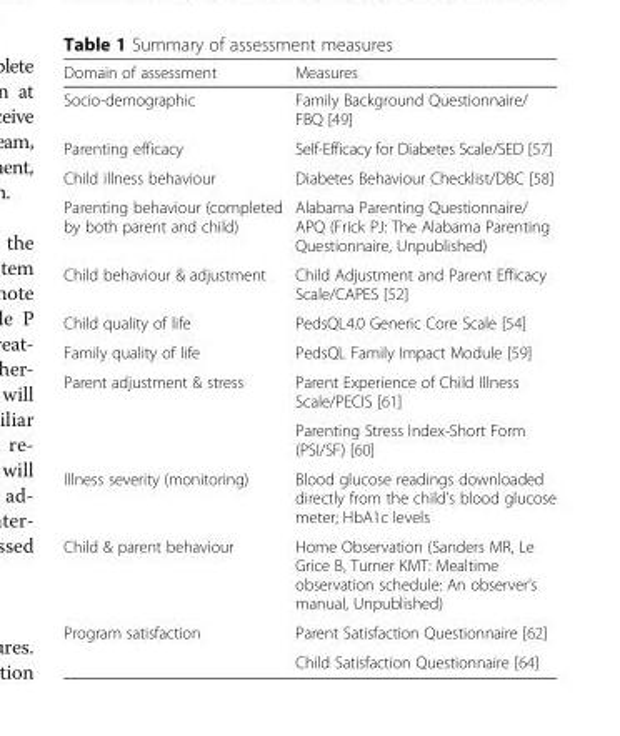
<table><thead><tr><td>Domain of assessment</td><td>Measures</td></tr></thead><tbody><tr><td>Socio-demographic</td><td>Family Background Questionnaire/ FBQ [49]</td></tr><tr><td>Parenting efficacy</td><td>Self-Efficacy for Diabetes Scale/SED [57]</td></tr><tr><td>Child illness behaviour</td><td>Diabetes Behaviour Checklist/DBC [58]</td></tr><tr><td>Parenting behaviour (completed by both parent and child)</td><td>Alabama Parenting Questionnaire/ APQ (Frick PJ: The Alabama Parenting Questionnaire, Unpublished)</td></tr><tr><td>Child behaviour &amp; adjustment</td><td>Child Adjustment and Parent Efficacy Scale/CAPES [52]</td></tr><tr><td>Child quality of life</td><td>PedsQL4.0 Generic Core Scale [54]</td></tr><tr><td>Family quality of life</td><td>PedsQL Family Impact Module [59]</td></tr><tr><td rowspan="2">Parent adjustment &amp; stress</td><td>Parent Experience of Child Illness Scale/PECIS [61]</td></tr><tr><td>Parenting Stress Index-Short Form (PSI/SF) [60]</td></tr><tr><td>Illness severity (monitoring)</td><td>Blood glucose readings downloaded directly from the child’s blood glucose meter; HbA1c levels</td></tr><tr><td>Child &amp; parent behaviour</td><td>Home Observation (Sanders MR, Le Grice B, Turner KMT: Mealtime observation schedule: An observer’s manual, Unpublished)</td></tr><tr><td rowspan="2">Program satisfaction</td><td>Parent Satisfaction Questionnaire [62]</td></tr><tr><td>Child Satisfaction Questionnaire [64]</td></tr></tbody></table>